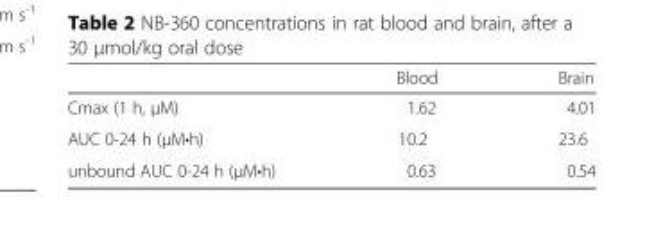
<table><thead><tr><td></td><td>Blood</td><td>Brain</td></tr></thead><tbody><tr><td>Cmax (1 h, μM)</td><td>1.62</td><td>4.01</td></tr><tr><td>AUC 0-24 h (μM•h)</td><td>10.2</td><td>23.6</td></tr><tr><td>unbound AUC 0-24 h (μM•h)</td><td>0.63</td><td>0.54</td></tr></tbody></table>